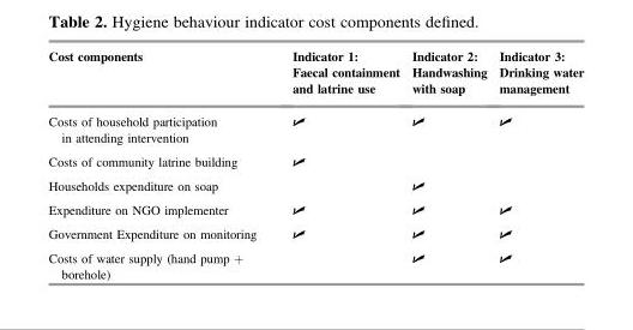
<table><thead><tr><td>Cost components</td><td>Indicator 1: Faecal containment and latrine use</td><td>Indicator 2: Handwashing with soap</td><td>Indicator 3: Drinking water management</td></tr></thead><tbody><tr><td>Costs of household participation in attending intervention</td><td>✓</td><td>✓</td><td>✓</td></tr><tr><td>Costs of community latrine building</td><td>✓</td><td></td><td></td></tr><tr><td>Households expenditure on soap</td><td></td><td>✓</td><td></td></tr><tr><td>Expenditure on NGO implementer</td><td>✓</td><td>✓</td><td>✓</td></tr><tr><td>Government Expenditure on monitoring</td><td>✓</td><td>✓</td><td>✓</td></tr><tr><td>Costs of water supply (hand pump + borehole)</td><td></td><td>✓</td><td>✓</td></tr></tbody></table>